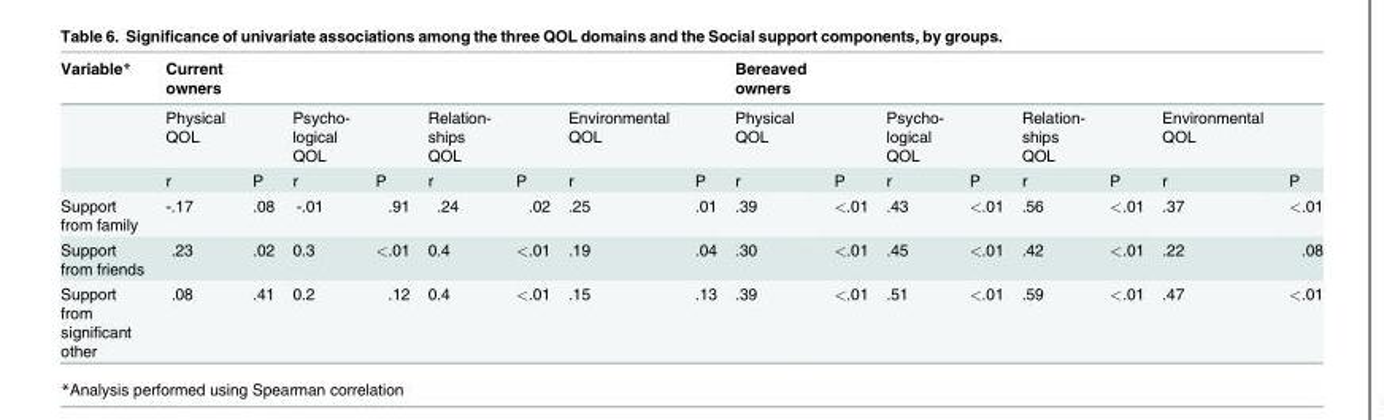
<table><thead><tr><td>Variable*</td><td>Current owners</td><td></td><td></td><td></td><td></td><td></td><td></td><td></td><td>Bereaved owners</td><td></td><td></td><td></td><td></td><td></td><td></td><td></td></tr></thead><tbody><tr><td></td><td>Physical QOL</td><td></td><td>Psycho- logical QOL</td><td></td><td>Relation- ships QOL</td><td></td><td>Environmental QOL</td><td></td><td>Physical QOL</td><td></td><td>Psycho- logical QOL</td><td></td><td>Relation- ships QOL</td><td></td><td>Environmental QOL</td><td></td></tr><tr><td></td><td>r</td><td>P</td><td>r</td><td>P</td><td>r</td><td>P</td><td>r</td><td>P</td><td>r</td><td>P</td><td>r</td><td>P</td><td>r</td><td>P</td><td>r</td><td>P</td></tr><tr><td>Support from family</td><td>-.17</td><td>.08</td><td>-.01</td><td>.91</td><td>.24</td><td>.02</td><td>.25</td><td>.01</td><td>.39</td><td>&lt;.01</td><td>.43</td><td>&lt;.01</td><td>.56</td><td>&lt;.01</td><td>.37</td><td>&lt;.01</td></tr><tr><td>Support from friends</td><td>.23</td><td>.02</td><td>0.3</td><td>&lt;.01</td><td>0.4</td><td>&lt;.01</td><td>.19</td><td>.04</td><td>.30</td><td>&lt;.01</td><td>.45</td><td>&lt;.01</td><td>.42</td><td>&lt;.01</td><td>.22</td><td>.08</td></tr><tr><td>Support from significant other</td><td>.08</td><td>.41</td><td>0.2</td><td>.12</td><td>0.4</td><td>&lt;.01</td><td>.15</td><td>.13</td><td>.39</td><td>&lt;.01</td><td>.51</td><td>&lt;.01</td><td>.59</td><td>&lt;.01</td><td>.47</td><td>&lt;.01</td></tr></tbody></table>